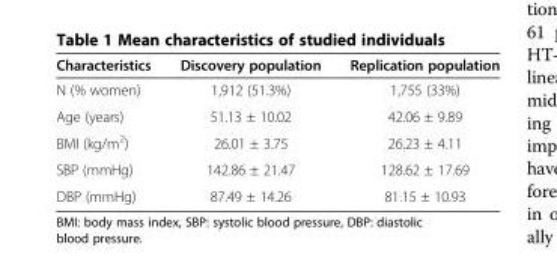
<table><thead><tr><td>Characteristics</td><td>Discovery population</td><td>Replication population</td></tr></thead><tbody><tr><td>N (% women)</td><td>1,912 (51.3%)</td><td>1,755 (33%)</td></tr><tr><td>Age (years)</td><td>51.13 ± 10.02</td><td>42.06 ± 9.89</td></tr><tr><td>BMI (kg/m<sup>2</sup>)</td><td>26.01 ± 3.75</td><td>26.23 ± 4.11</td></tr><tr><td>SBP (mmHg)</td><td>142.86 ± 21.47</td><td>128.62 ± 17.69</td></tr><tr><td>DBP (mmHg)</td><td>87.49 ± 14.26</td><td>81.15 ± 10.93</td></tr></tbody></table>